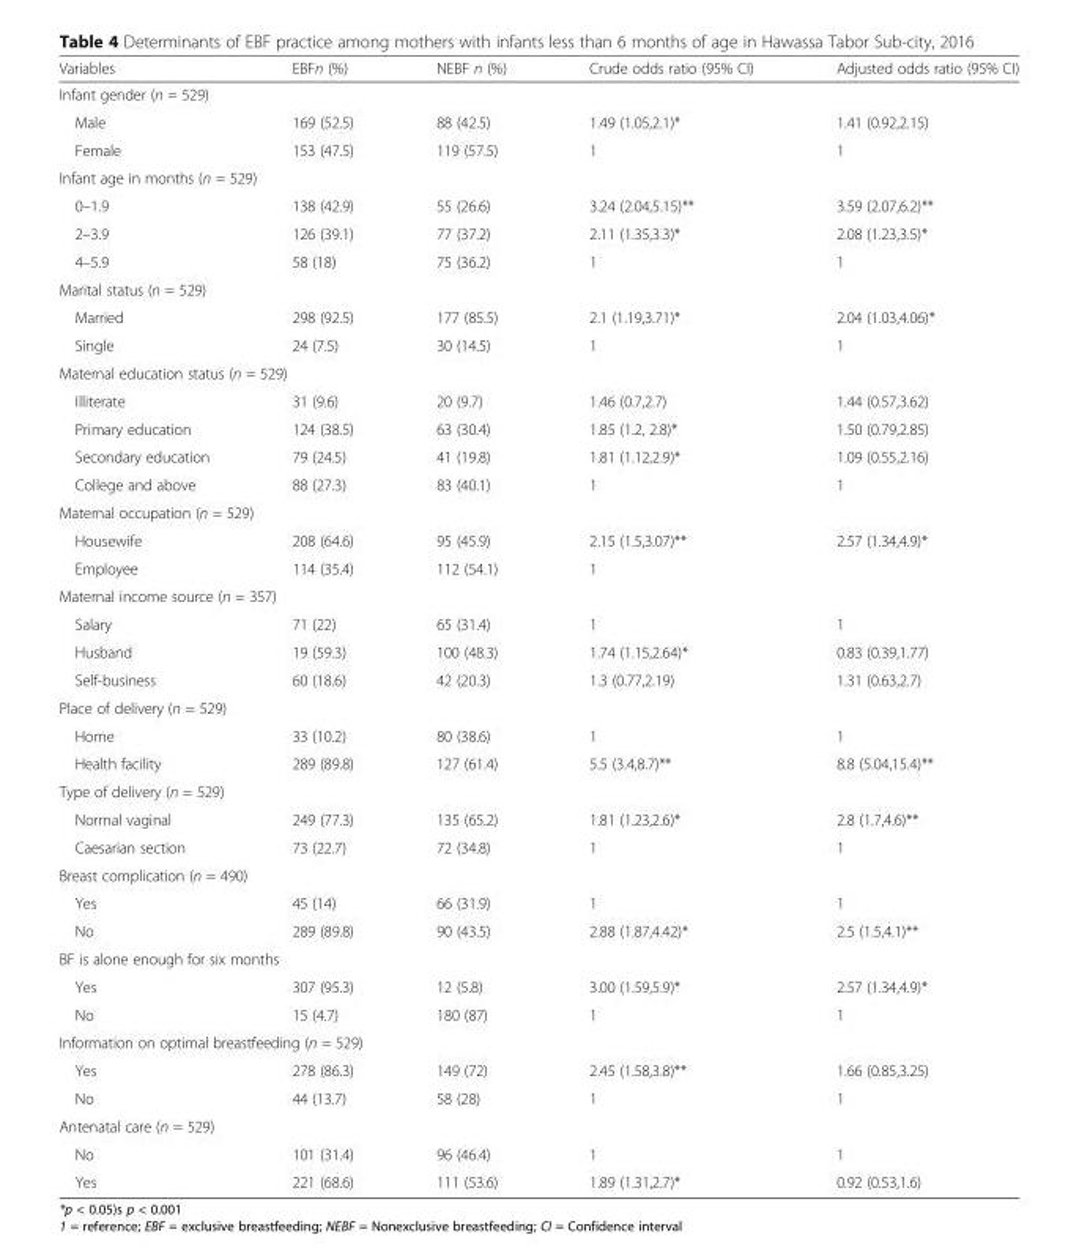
<table><thead><tr><td>Variables</td><td>EBFn (%)</td><td>NEBF n (%)</td><td>Crude odds ratio (95% CI)</td><td>Adjusted odds ratio (95% CI)</td></tr></thead><tbody><tr><td colspan="5">Infant gender (n = 529)</td></tr><tr><td>Male</td><td>169 (52.5)</td><td>88 (42.5)</td><td>1.49 (1.05,2.1)*</td><td>1.41 (0.92,2.15)</td></tr><tr><td>Female</td><td>153 (47.5)</td><td>119 (57.5)</td><td>1</td><td>1</td></tr><tr><td colspan="5">Infant age in months (n = 529)</td></tr><tr><td>0–1.9</td><td>138 (42.9)</td><td>55 (26.6)</td><td>3.24 (2.04,5.15)**</td><td>3.59 (2.07,6.2)**</td></tr><tr><td>2–3.9</td><td>126 (39.1)</td><td>77 (37.2)</td><td>2.11 (1.35,3.3)*</td><td>2.08 (1.23,3.5)*</td></tr><tr><td>4–5.9</td><td>58 (18)</td><td>75 (36.2)</td><td>1</td><td>1</td></tr><tr><td colspan="5">Marital status (n = 529)</td></tr><tr><td>Married</td><td>298 (92.5)</td><td>177 (85.5)</td><td>2.1 (1.19,3.71)*</td><td>2.04 (1.03,4.06)*</td></tr><tr><td>Single</td><td>24 (7.5)</td><td>30 (14.5)</td><td>1</td><td>1</td></tr><tr><td colspan="5">Maternal education status (n = 529)</td></tr><tr><td>Illiterate</td><td>31 (9.6)</td><td>20 (9.7)</td><td>1.46 (0.7,2.7)</td><td>1.44 (0.57,3.62)</td></tr><tr><td>Primary education</td><td>124 (38.5)</td><td>63 (30.4)</td><td>1.85 (1.2, 2.8)*</td><td>1.50 (0.79,2.85)</td></tr><tr><td>Secondary education</td><td>79 (24.5)</td><td>41 (19.8)</td><td>1.81 (1.12,2.9)*</td><td>1.09 (0.55,2.16)</td></tr><tr><td>College and above</td><td>88 (27.3)</td><td>83 (40.1)</td><td>1</td><td>1</td></tr><tr><td colspan="5">Maternal occupation (n = 529)</td></tr><tr><td>Housewife</td><td>208 (64.6)</td><td>95 (45.9)</td><td>2.15 (1.5,3.07)**</td><td>2.57 (1.34,4.9)*</td></tr><tr><td>Employee</td><td>114 (35.4)</td><td>112 (54.1)</td><td>1</td><td></td></tr><tr><td colspan="5">Maternal income source (n = 357)</td></tr><tr><td>Salary</td><td>71 (22)</td><td>65 (31.4)</td><td>1</td><td>1</td></tr><tr><td>Husband</td><td>19 (59.3)</td><td>100 (48.3)</td><td>1.74 (1.15,2.64)*</td><td>0.83 (0.39,1.77)</td></tr><tr><td>Self-business</td><td>60 (18.6)</td><td>42 (20.3)</td><td>1.3 (0.77,2.19)</td><td>1.31 (0.63,2.7)</td></tr><tr><td colspan="5">Place of delivery (n = 529)</td></tr><tr><td>Home</td><td>33 (10.2)</td><td>80 (38.6)</td><td>1</td><td>1</td></tr><tr><td>Health facility</td><td>289 (89.8)</td><td>127 (61.4)</td><td>5.5 (3.4,8.7)**</td><td>8.8 (5.04,15.4)**</td></tr><tr><td colspan="5">Type of delivery (n = 529)</td></tr><tr><td>Normal vaginal</td><td>249 (77.3)</td><td>135 (65.2)</td><td>1.81 (1.23,2.6)*</td><td>2.8 (1.7,4.6)**</td></tr><tr><td>Caesarian section</td><td>73 (22.7)</td><td>72 (34.8)</td><td>1</td><td>1</td></tr><tr><td colspan="5">Breast complication (n = 490)</td></tr><tr><td>Yes</td><td>45 (14)</td><td>66 (31.9)</td><td>1</td><td>1</td></tr><tr><td>No</td><td>289 (89.8)</td><td>90 (43.5)</td><td>2.88 (1.87,4.42)*</td><td>2.5 (1.5,4.1)**</td></tr><tr><td colspan="5">BF is alone enough for six months</td></tr><tr><td>Yes</td><td>307 (95.3)</td><td>12 (5.8)</td><td>3.00 (1.59,5.9)*</td><td>2.57 (1.34,4.9)*</td></tr><tr><td>No</td><td>15 (4.7)</td><td>180 (87)</td><td>1</td><td>1</td></tr><tr><td colspan="5">Information on optimal breastfeeding (n = 529)</td></tr><tr><td>Yes</td><td>278 (86.3)</td><td>149 (72)</td><td>2.45 (1.58,3.8)**</td><td>1.66 (0.85,3.25)</td></tr><tr><td>No</td><td>44 (13.7)</td><td>58 (28)</td><td>1</td><td>1</td></tr><tr><td colspan="5">Antenatal care (n = 529)</td></tr><tr><td>No</td><td>101 (31.4)</td><td>96 (46.4)</td><td>1</td><td>1</td></tr><tr><td>Yes</td><td>221 (68.6)</td><td>111 (53.6)</td><td>1.89 (1.31,2.7)*</td><td>0.92 (0.53,1.6)</td></tr></tbody></table>